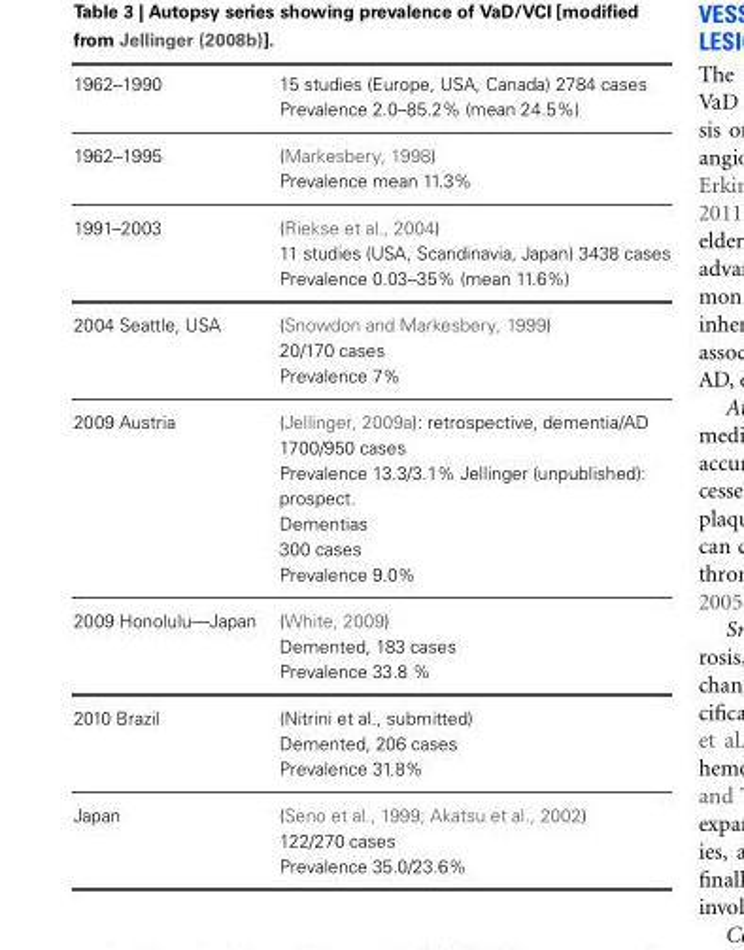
<table><tbody><tr><td rowspan="2">1962–1990</td><td>15 studies (Europe, USA, Canada) 2784 cases</td></tr><tr><td>Prevalence 2.0–85.2% (mean 24.5%)</td></tr><tr><td rowspan="2">1962–1995</td><td>(Markesbery, 1998)</td></tr><tr><td>Prevalence mean 11.3%</td></tr><tr><td rowspan="3">1991–2003</td><td>(Riekse et al., 2004)</td></tr><tr><td>11 studies (USA, Scandinavia, Japan) 3438 cases</td></tr><tr><td>Prevalence 0.03–35% (mean 11.6%)</td></tr><tr><td rowspan="3">2004 Seattle, USA</td><td>(Snowdon and Markesbery, 1999)</td></tr><tr><td>20/170 cases</td></tr><tr><td>Prevalence 7%</td></tr><tr><td rowspan="6">2009 Austria</td><td>(Jellinger, 2009a): retrospective, dementia/AD</td></tr><tr><td>1700/950 cases</td></tr><tr><td>Prevalence 13.3/3.1% Jellinger (unpublished): prospect.</td></tr><tr><td>Dementias</td></tr><tr><td>300 cases</td></tr><tr><td>Prevalence 9.0%</td></tr><tr><td rowspan="3">2009 Honolulu—Japan</td><td>(White, 2009)</td></tr><tr><td>Demented, 183 cases</td></tr><tr><td>Prevalence 33.8 %</td></tr><tr><td rowspan="3">2010 Brazil</td><td>(Nitrini et al., submitted)</td></tr><tr><td>Demented, 206 cases</td></tr><tr><td>Prevalence 31.8%</td></tr><tr><td rowspan="3">Japan</td><td>(Seno et al., 1999; Akatsu et al., 2002)</td></tr><tr><td>122/270 cases</td></tr><tr><td>Prevalence 35.0/23.6%</td></tr></tbody></table>